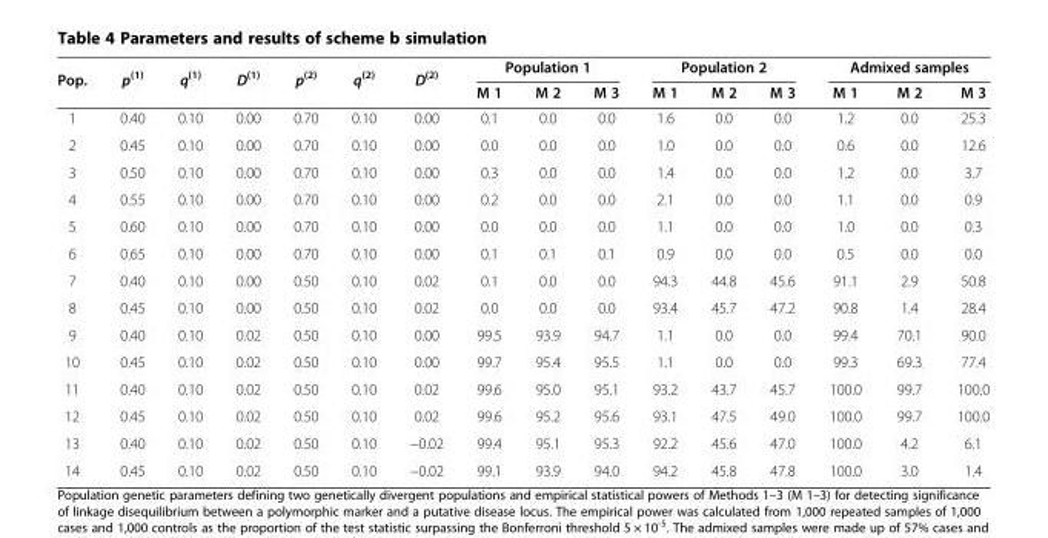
<table><thead><tr><td rowspan="2">Pop.</td><td rowspan="2">p<sup>(1)</sup></td><td rowspan="2">q<sup>(1)</sup></td><td rowspan="2">D<sup>(1)</sup></td><td rowspan="2">p<sup>(2)</sup></td><td rowspan="2">q<sup>(2)</sup></td><td rowspan="2">D<sup>(2)</sup></td><td colspan="3">Population 1</td><td colspan="3">Population 2</td><td colspan="3">Admixed samples</td></tr><tr><td>M 1</td><td>M 2</td><td>M 3</td><td>M 1</td><td>M 2</td><td>M 3</td><td>M 1</td><td>M 2</td><td>M 3</td></tr></thead><tbody><tr><td>1</td><td>0.40</td><td>0.10</td><td>0.00</td><td>0.70</td><td>0.10</td><td>0.00</td><td>0.1</td><td>0.0</td><td>0.0</td><td>1.6</td><td>0.0</td><td>0.0</td><td>1.2</td><td>0.0</td><td>25.3</td></tr><tr><td>2</td><td>0.45</td><td>0.10</td><td>0.00</td><td>0.70</td><td>0.10</td><td>0.00</td><td>0.0</td><td>0.0</td><td>0.0</td><td>1.0</td><td>0.0</td><td>0.0</td><td>0.6</td><td>0.0</td><td>12.6</td></tr><tr><td>3</td><td>0.50</td><td>0.10</td><td>0.00</td><td>0.70</td><td>0.10</td><td>0.00</td><td>0.3</td><td>0.0</td><td>0.0</td><td>1.4</td><td>0.0</td><td>0.0</td><td>1.2</td><td>0.0</td><td>3.7</td></tr><tr><td>4</td><td>0.55</td><td>0.10</td><td>0.00</td><td>0.70</td><td>0.10</td><td>0.00</td><td>0.2</td><td>0.0</td><td>0.0</td><td>2.1</td><td>0.0</td><td>0.0</td><td>1.1</td><td>0.0</td><td>0.9</td></tr><tr><td>5</td><td>0.60</td><td>0.10</td><td>0.00</td><td>0.70</td><td>0.10</td><td>0.00</td><td>0.0</td><td>0.0</td><td>0.0</td><td>1.1</td><td>0.0</td><td>0.0</td><td>1.0</td><td>0.0</td><td>0.3</td></tr><tr><td>6</td><td>0.65</td><td>0.10</td><td>0.00</td><td>0.70</td><td>0.10</td><td>0.00</td><td>0.1</td><td>0.1</td><td>0.1</td><td>0.9</td><td>0.0</td><td>0.0</td><td>0.5</td><td>0.0</td><td>0.0</td></tr><tr><td>7</td><td>0.40</td><td>0.10</td><td>0.00</td><td>0.50</td><td>0.10</td><td>0.02</td><td>0.1</td><td>0.0</td><td>0.0</td><td>94.3</td><td>44.8</td><td>45.6</td><td>91.1</td><td>2.9</td><td>50.8</td></tr><tr><td>8</td><td>0.45</td><td>0.10</td><td>0.00</td><td>0.50</td><td>0.10</td><td>0.02</td><td>0.0</td><td>0.0</td><td>0.0</td><td>93.4</td><td>45.7</td><td>47.2</td><td>90.8</td><td>1.4</td><td>28.4</td></tr><tr><td>9</td><td>0.40</td><td>0.10</td><td>0.02</td><td>0.50</td><td>0.10</td><td>0.00</td><td>99.5</td><td>93.9</td><td>94.7</td><td>1.1</td><td>0.0</td><td>0.0</td><td>99.4</td><td>70.1</td><td>90.0</td></tr><tr><td>10</td><td>0.45</td><td>0.10</td><td>0.02</td><td>0.50</td><td>0.10</td><td>0.00</td><td>99.7</td><td>95.4</td><td>95.5</td><td>1.1</td><td>0.0</td><td>0.0</td><td>99.3</td><td>69.3</td><td>77.4</td></tr><tr><td>11</td><td>0.40</td><td>0.10</td><td>0.02</td><td>0.50</td><td>0.10</td><td>0.02</td><td>99.6</td><td>95.0</td><td>95.1</td><td>93.2</td><td>43.7</td><td>45.7</td><td>100.0</td><td>99.7</td><td>100.0</td></tr><tr><td>12</td><td>0.45</td><td>0.10</td><td>0.02</td><td>0.50</td><td>0.10</td><td>0.02</td><td>99.6</td><td>95.2</td><td>95.6</td><td>93.1</td><td>47.5</td><td>49.0</td><td>100.0</td><td>99.7</td><td>100.0</td></tr><tr><td>13</td><td>0.40</td><td>0.10</td><td>0.02</td><td>0.50</td><td>0.10</td><td>−0.02</td><td>99.4</td><td>95.1</td><td>95.3</td><td>92.2</td><td>45.6</td><td>47.0</td><td>100.0</td><td>4.2</td><td>6.1</td></tr><tr><td>14</td><td>0.45</td><td>0.10</td><td>0.02</td><td>0.50</td><td>0.10</td><td>−0.02</td><td>99.1</td><td>93.9</td><td>94.0</td><td>94.2</td><td>45.8</td><td>47.8</td><td>100.0</td><td>3.0</td><td>1.4</td></tr></tbody></table>